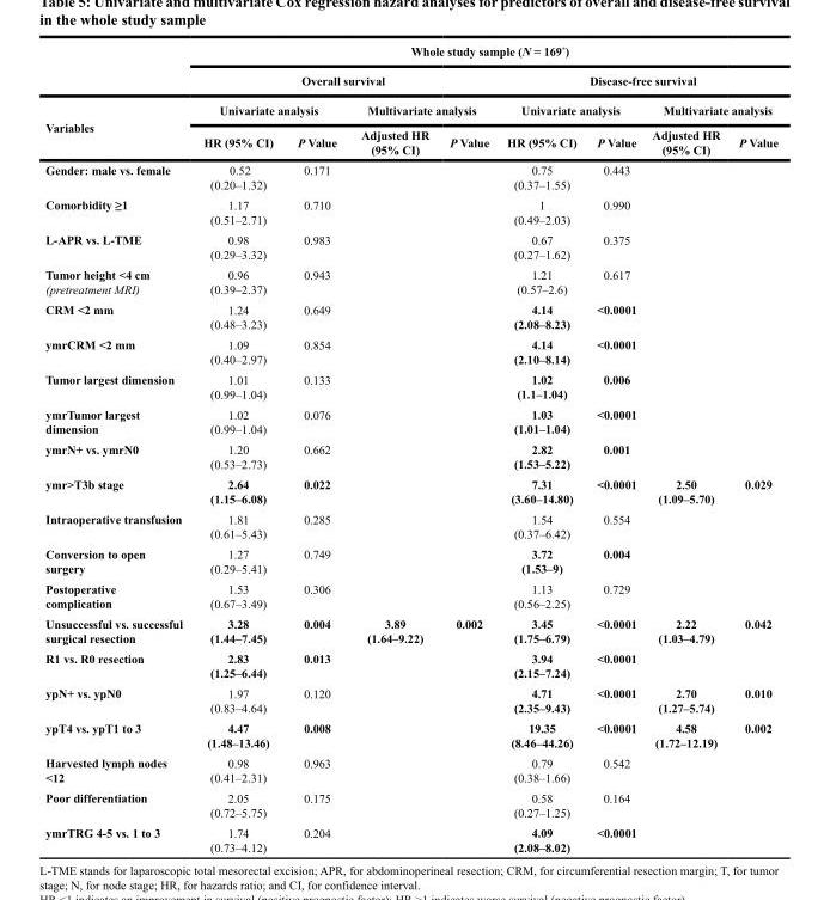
<table><thead><tr><td rowspan="4">Variables</td><td colspan="8">Whole study sample (N = 169*)</td></tr><tr><td colspan="4">Overall survival</td><td colspan="4">Disease-free survival</td></tr><tr><td colspan="2">Univariate analysis</td><td colspan="2">Multivariate analysis</td><td colspan="2">Univariate analysis</td><td colspan="2">Multivariate analysis</td></tr><tr><td>HR (95% CI)</td><td>P Value</td><td>Adjusted HR (95% CI)</td><td>P Value</td><td>HR (95% CI)</td><td>P Value</td><td>Adjusted HR (95% CI)</td><td>P Value</td></tr></thead><tbody><tr><td>Gender: male vs. female</td><td>0.52 (0.20–1.32)</td><td>0.171</td><td></td><td></td><td>0.75 (0.37–1.55)</td><td>0.443</td><td></td><td></td></tr><tr><td>Comorbidity ≥1</td><td>1.17 (0.51–2.71)</td><td>0.710</td><td></td><td></td><td>1 (0.49–2.03)</td><td>0.990</td><td></td><td></td></tr><tr><td>L-APR vs. L-TME</td><td>0.98 (0.29–3.32)</td><td>0.983</td><td></td><td></td><td>0.67 (0.27–1.62)</td><td>0.375</td><td></td><td></td></tr><tr><td>Tumor height &lt;4 cm (pretreatment MRI)</td><td>0.96 (0.39–2.37)</td><td>0.943</td><td></td><td></td><td>1.21 (0.57–2.6)</td><td>0.617</td><td></td><td></td></tr><tr><td>CRM &lt;2 mm</td><td>1.24 (0.48–3.23)</td><td>0.649</td><td></td><td></td><td>4.14 (2.08–8.23)</td><td>&lt;0.0001</td><td></td><td></td></tr><tr><td>ymrCRM &lt;2 mm</td><td>1.09 (0.40–2.97)</td><td>0.854</td><td></td><td></td><td>4.14 (2.10–8.14)</td><td>&lt;0.0001</td><td></td><td></td></tr><tr><td>Tumor largest dimension</td><td>1.01 (0.99–1.04)</td><td>0.133</td><td></td><td></td><td>1.02 (1.1–1.04)</td><td>0.006</td><td></td><td></td></tr><tr><td>ymrTumor largest dimension</td><td>1.02 (0.99–1.04)</td><td>0.076</td><td></td><td></td><td>1.03 (1.01–1.04)</td><td>&lt;0.0001</td><td></td><td></td></tr><tr><td>ymrN+ vs. ymrN0</td><td>1.20 (0.53–2.73)</td><td>0.662</td><td></td><td></td><td>2.82 (1.53–5.22)</td><td>0.001</td><td></td><td></td></tr><tr><td>ymr&gt;T3b stage</td><td>2.64 (1.15–6.08)</td><td>0.022</td><td></td><td></td><td>7.31 (3.60–14.80)</td><td>&lt;0.0001</td><td>2.50 (1.09–5.70)</td><td>0.029</td></tr><tr><td>Intraoperative transfusion</td><td>1.81 (0.61–5.43)</td><td>0.285</td><td></td><td></td><td>1.54 (0.37–6.42)</td><td>0.554</td><td></td><td></td></tr><tr><td>Conversion to open surgery</td><td>1.27 (0.29–5.41)</td><td>0.749</td><td></td><td></td><td>3.72 (1.53–9)</td><td>0.004</td><td></td><td></td></tr><tr><td>Postoperative complication</td><td>1.53 (0.67–3.49)</td><td>0.306</td><td></td><td></td><td>1.13 (0.56–2.25)</td><td>0.729</td><td></td><td></td></tr><tr><td>Unsuccessful vs. successful surgical resection</td><td>3.28 (1.44–7.45)</td><td>0.004</td><td>3.89 (1.64–9.22)</td><td>0.002</td><td>3.45 (1.75–6.79)</td><td>&lt;0.0001</td><td>2.22 (1.03–4.79)</td><td>0.042</td></tr><tr><td>R1 vs. R0 resection</td><td>2.83 (1.25–6.44)</td><td>0.013</td><td></td><td></td><td>3.94 (2.15–7.24)</td><td>&lt;0.0001</td><td></td><td></td></tr><tr><td>ypN+ vs. ypN0</td><td>1.97 (0.83–4.64)</td><td>0.120</td><td></td><td></td><td>4.71 (2.35–9.43)</td><td>&lt;0.0001</td><td>2.70 (1.27–5.74)</td><td>0.010</td></tr><tr><td>ypT4 vs. ypT1 to 3</td><td>4.47 (1.48–13.46)</td><td>0.008</td><td></td><td></td><td>19.35 (8.46–44.26)</td><td>&lt;0.0001</td><td>4.58 (1.72–12.19)</td><td>0.002</td></tr><tr><td>Harvested lymph nodes &lt;12</td><td>0.98 (0.41–2.31)</td><td>0.963</td><td></td><td></td><td>0.79 (0.38–1.66)</td><td>0.542</td><td></td><td></td></tr><tr><td>Poor differentiation</td><td>2.05 (0.72–5.75)</td><td>0.175</td><td></td><td></td><td>0.58 (0.27–1.25)</td><td>0.164</td><td></td><td></td></tr><tr><td>ymrTRG 4-5 vs. 1 to 3</td><td>1.74 (0.73–4.12)</td><td>0.204</td><td></td><td></td><td>4.09 (2.08–8.02)</td><td>&lt;0.0001</td><td></td><td></td></tr></tbody></table>